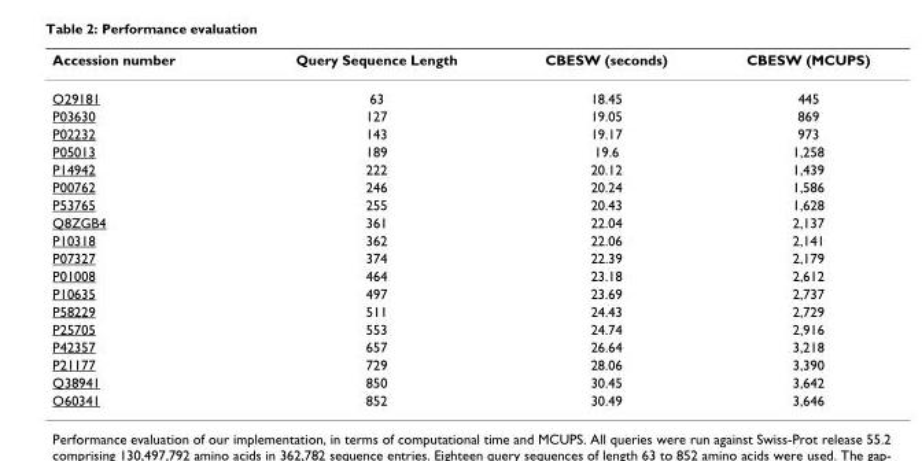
<table><thead><tr><td>Accession number</td><td>Query Sequence Length</td><td>CBESW (seconds)</td><td>CBESW (MCUPS)</td></tr></thead><tbody><tr><td>O29181</td><td>63</td><td>18.45</td><td>445</td></tr><tr><td>P03630</td><td>127</td><td>19.05</td><td>869</td></tr><tr><td>P02232</td><td>143</td><td>19.17</td><td>973</td></tr><tr><td>P05013</td><td>189</td><td>19.6</td><td>1,258</td></tr><tr><td>P14942</td><td>222</td><td>20.12</td><td>1,439</td></tr><tr><td>P00762</td><td>246</td><td>20.24</td><td>1,586</td></tr><tr><td>P53765</td><td>255</td><td>20.43</td><td>1,628</td></tr><tr><td>Q8ZGB4</td><td>361</td><td>22.04</td><td>2,137</td></tr><tr><td>P10318</td><td>362</td><td>22.06</td><td>2,141</td></tr><tr><td>P07327</td><td>374</td><td>22.39</td><td>2,179</td></tr><tr><td>P01008</td><td>464</td><td>23.18</td><td>2,612</td></tr><tr><td>P10635</td><td>497</td><td>23.69</td><td>2,737</td></tr><tr><td>P58229</td><td>511</td><td>24.43</td><td>2,729</td></tr><tr><td>P25705</td><td>553</td><td>24.74</td><td>2,916</td></tr><tr><td>P42357</td><td>657</td><td>26.64</td><td>3,218</td></tr><tr><td>P21177</td><td>729</td><td>28.06</td><td>3,390</td></tr><tr><td>Q38941</td><td>850</td><td>30.45</td><td>3,642</td></tr><tr><td>O60341</td><td>852</td><td>30.49</td><td>3,646</td></tr></tbody></table>